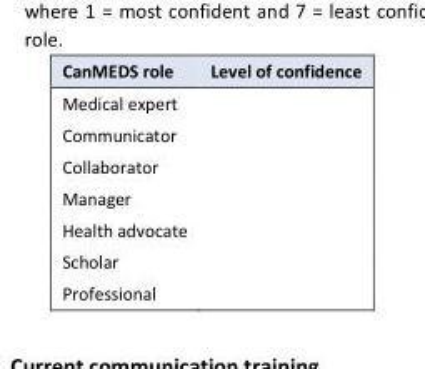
<table><thead><tr><td>CanMEDS role</td><td>Level of confidence</td></tr></thead><tbody><tr><td colspan="2">Medical expert</td></tr><tr><td colspan="2">Communicator</td></tr><tr><td colspan="2">Collaborator</td></tr><tr><td colspan="2">Manager</td></tr><tr><td colspan="2">Health advocate</td></tr><tr><td colspan="2">Scholar</td></tr><tr><td>Professional</td><td></td></tr></tbody></table>